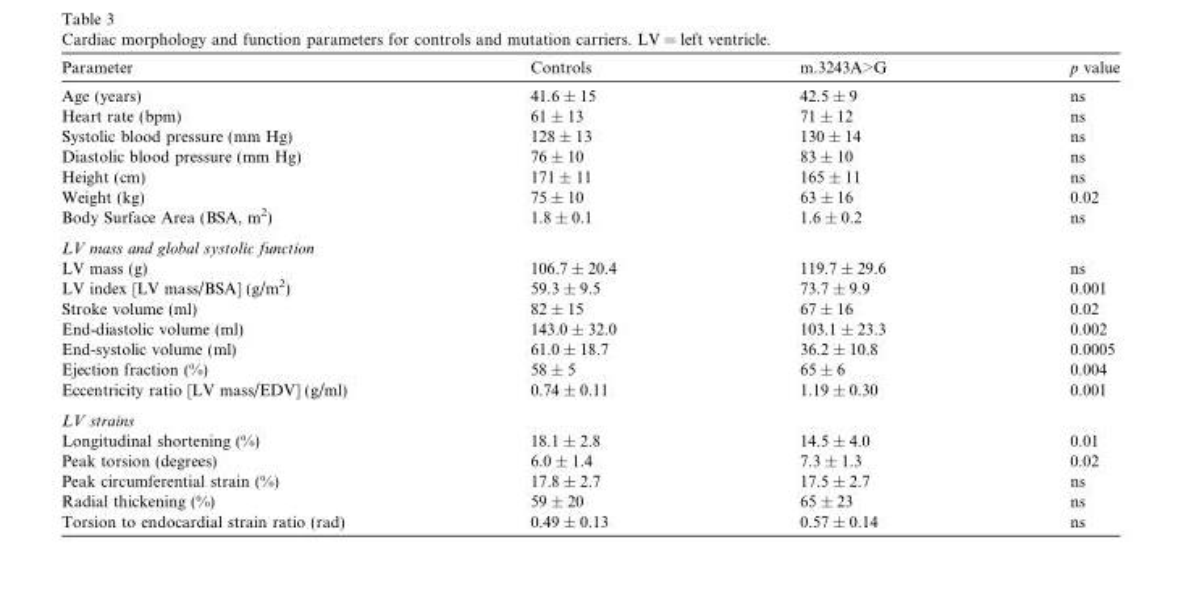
<table><thead><tr><td>Parameter</td><td>Controls</td><td>m.3243A&gt;G</td><td>p value</td></tr></thead><tbody><tr><td>Age (years)</td><td>41.6 ± 15</td><td>42.5 ± 9</td><td>ns</td></tr><tr><td>Heart rate (bpm)</td><td>61 ± 13</td><td>71 ± 12</td><td>ns</td></tr><tr><td>Systolic blood pressure (mm Hg)</td><td>128 ± 13</td><td>130 ± 14</td><td>ns</td></tr><tr><td>Diastolic blood pressure (mm Hg)</td><td>76 ± 10</td><td>83 ± 10</td><td>ns</td></tr><tr><td>Height (cm)</td><td>171 ± 11</td><td>165 ± 11</td><td>ns</td></tr><tr><td>Weight (kg)</td><td>75 ± 10</td><td>63 ± 16</td><td>0.02</td></tr><tr><td>Body Surface Area (BSA, m<sup>2</sup>)</td><td>1.8 ± 0.1</td><td>1.6 ± 0.2</td><td>ns</td></tr><tr><td colspan="4">LV mass and global systolic function</td></tr><tr><td>LV mass (g)</td><td>106.7 ± 20.4</td><td>119.7 ± 29.6</td><td>ns</td></tr><tr><td>LV index [LV mass/BSA] (g/m<sup>2</sup>)</td><td>59.3 ± 9.5</td><td>73.7 ± 9.9</td><td>0.001</td></tr><tr><td>Stroke volume (ml)</td><td>82 ± 15</td><td>67 ± 16</td><td>0.02</td></tr><tr><td>End-diastolic volume (ml)</td><td>143.0 ± 32.0</td><td>103.1 ± 23.3</td><td>0.002</td></tr><tr><td>End-systolic volume (ml)</td><td>61.0 ± 18.7</td><td>36.2 ± 10.8</td><td>0.0005</td></tr><tr><td>Ejection fraction (%)</td><td>58 ± 5</td><td>65 ± 6</td><td>0.004</td></tr><tr><td>Eccentricity ratio [LV mass/EDV] (g/ml)</td><td>0.74 ± 0.11</td><td>1.19 ± 0.30</td><td>0.001</td></tr><tr><td colspan="4">LV strains</td></tr><tr><td>Longitudinal shortening (%)</td><td>18.1 ± 2.8</td><td>14.5 ± 4.0</td><td>0.01</td></tr><tr><td>Peak torsion (degrees)</td><td>6.0 ± 1.4</td><td>7.3 ± 1.3</td><td>0.02</td></tr><tr><td>Peak circumferential strain (%)</td><td>17.8 ± 2.7</td><td>17.5 ± 2.7</td><td>ns</td></tr><tr><td>Radial thickening (%)</td><td>59 ± 20</td><td>65 ± 23</td><td>ns</td></tr><tr><td>Torsion to endocardial strain ratio (rad)</td><td>0.49 ± 0.13</td><td>0.57 ± 0.14</td><td>ns</td></tr></tbody></table>